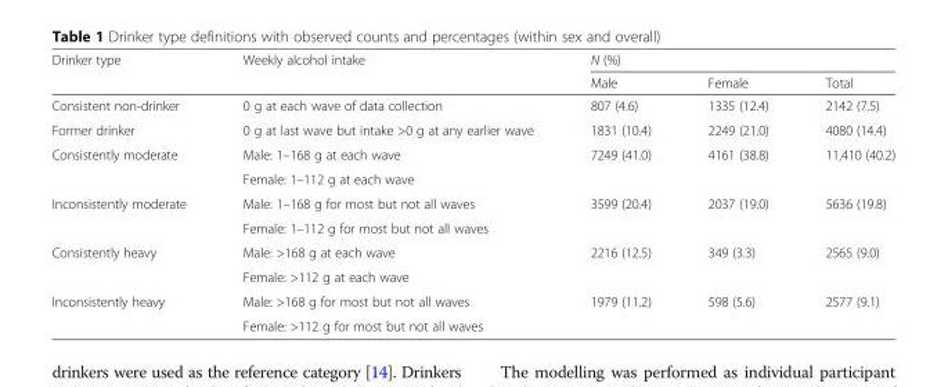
<table><thead><tr><td rowspan="2">Drinker type</td><td rowspan="2">Weekly alcohol intake</td><td colspan="3">N (%)</td></tr><tr><td>Male</td><td>Female</td><td>Total</td></tr></thead><tbody><tr><td>Consistent non-drinker</td><td>0 g at each wave of data collection</td><td>807 (4.6)</td><td>1335 (12.4)</td><td>2142 (7.5)</td></tr><tr><td>Former drinker</td><td>0 g at last wave but intake &gt;0 g at any earlier wave</td><td>1831 (10.4)</td><td>2249 (21.0)</td><td>4080 (14.4)</td></tr><tr><td rowspan="2">Consistently moderate</td><td>Male: 1–168 g at each wave</td><td rowspan="2">7249 (41.0)</td><td rowspan="2">4161 (38.8)</td><td rowspan="2">11,410 (40.2)</td></tr><tr><td>Female: 1–112 g at each wave</td></tr><tr><td rowspan="2">Inconsistently moderate</td><td>Male: 1–168 g for most but not all waves</td><td rowspan="2">3599 (20.4)</td><td rowspan="2">2037 (19.0)</td><td rowspan="2">5636 (19.8)</td></tr><tr><td>Female: 1–112 g for most but not all waves</td></tr><tr><td rowspan="2">Consistently heavy</td><td>Male: &gt;168 g at each wave</td><td rowspan="2">2216 (12.5)</td><td rowspan="2">349 (3.3)</td><td rowspan="2">2565 (9.0)</td></tr><tr><td>Female: &gt;112 g at each wave</td></tr><tr><td rowspan="2">Inconsistently heavy</td><td>Male: &gt;168 g for most but not all waves</td><td rowspan="2">1979 (11.2)</td><td rowspan="2">598 (5.6)</td><td rowspan="2">2577 (9.1)</td></tr><tr><td>Female: &gt;112 g for most but not all waves</td></tr></tbody></table>